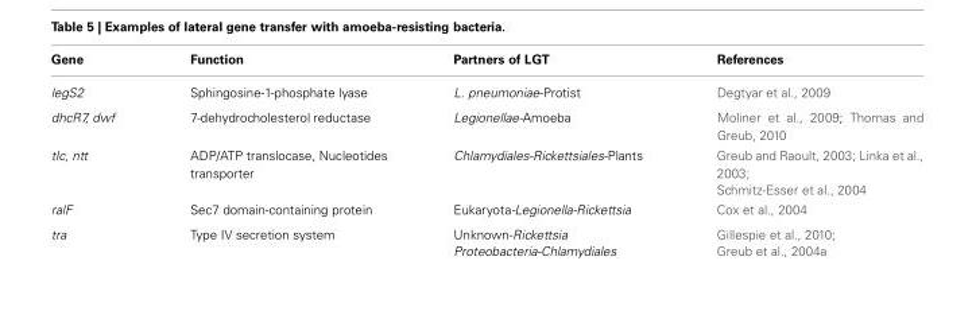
<table><thead><tr><td>Gene</td><td>Function</td><td>Partners of LGT</td><td>References</td></tr></thead><tbody><tr><td>legS2</td><td>Sphingosine-1-phosphate lyase</td><td>L. pneumoniae-Protist</td><td>Degtyar et al., 2009</td></tr><tr><td>dhcR7, dwf</td><td>7-dehydrocholesterol reductase</td><td>Legionellae-Amoeba</td><td>Moliner et al., 2009; Thomas and Greub, 2010</td></tr><tr><td>tlc, ntt</td><td>ADP/ATP translocase, Nucleotides transporter</td><td>Chlamydiales-Rickettsiales-Plants</td><td>Greub and Raoult, 2003; Linka et al., 2003; Schmitz-Esser et al., 2004</td></tr><tr><td>ralF</td><td>Sec7 domain-containing protein</td><td>Eukaryota-Legionella-Rickettsia</td><td>Cox et al., 2004</td></tr><tr><td>tra</td><td>Type IV secretion system</td><td>Unknown-Rickettsia Proteobacteria-Chlamydiales</td><td>Gillespie et al., 2010; Greub et al., 2004a</td></tr></tbody></table>